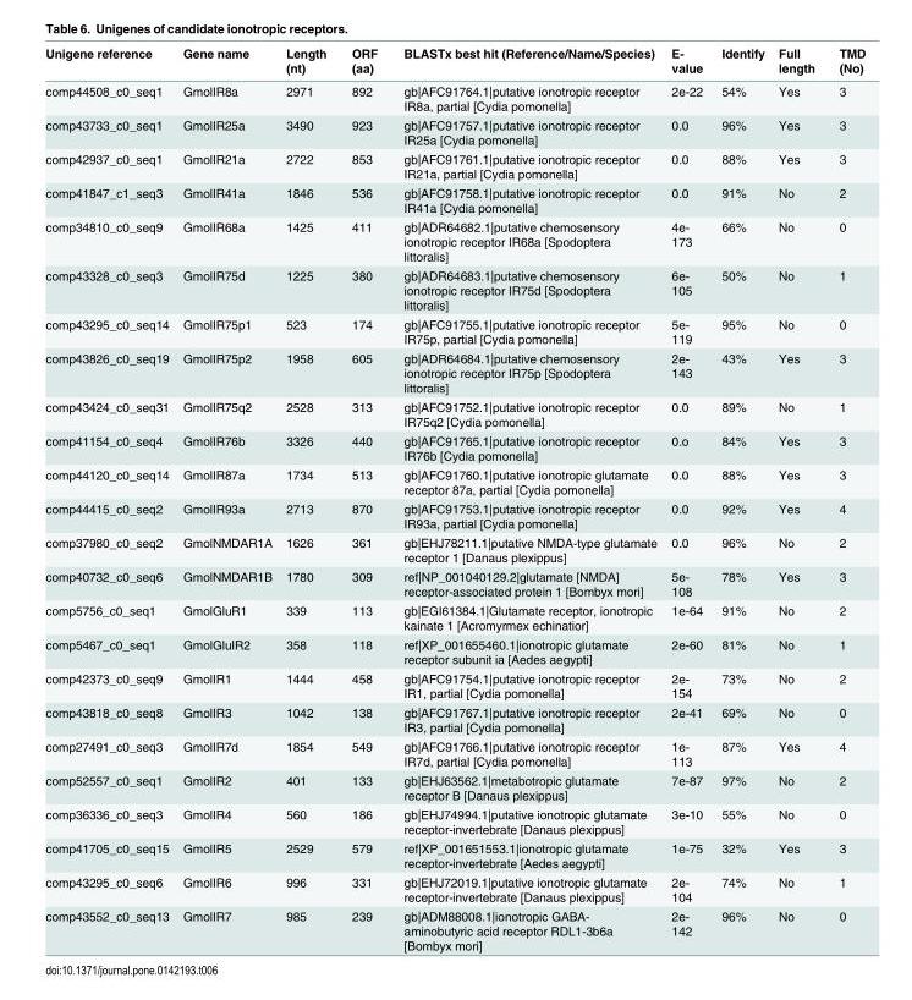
<table><thead><tr><td>Unigene reference</td><td>Gene name</td><td>Length (nt)</td><td>ORF (aa)</td><td>BLASTx best hit (Reference/Name/Species)</td><td>E- value</td><td>Identify</td><td>Full length</td><td>TMD (No)</td></tr></thead><tbody><tr><td>comp44508_c0_seq1</td><td>GmolIR8a</td><td>2971</td><td>892</td><td>gb|AFC91764.1|putative ionotropic receptor IR8a, partial [Cydia pomonella]</td><td>2e-22</td><td>54%</td><td>Yes</td><td>3</td></tr><tr><td>comp43733_c0_seq1</td><td>GmolIR25a</td><td>3490</td><td>923</td><td>gb|AFC91757.1|putative ionotropic receptor IR25a [Cydia pomonella]</td><td>0.0</td><td>96%</td><td>Yes</td><td>3</td></tr><tr><td>comp42937_c0_seq1</td><td>GmolIR21a</td><td>2722</td><td>853</td><td>gb|AFC91761.1|putative ionotropic receptor IR21a, partial [Cydia pomonella]</td><td>0.0</td><td>88%</td><td>Yes</td><td>3</td></tr><tr><td>comp41847_c1_seq3</td><td>GmolIR41a</td><td>1846</td><td>536</td><td>gb|AFC91758.1|putative ionotropic receptor IR41a [Cydia pomonella]</td><td>0.0</td><td>91%</td><td>No</td><td>2</td></tr><tr><td>comp34810_c0_seq9</td><td>GmolIR68a</td><td>1425</td><td>411</td><td>gb|ADR64682.1|putative chemosensory ionotropic receptor IR68a [Spodoptera littoralis]</td><td>4e- 173</td><td>66%</td><td>No</td><td>0</td></tr><tr><td>comp43328_c0_seq3</td><td>GmolIR75d</td><td>1225</td><td>380</td><td>gb|ADR64683.1|putative chemosensory ionotropic receptor IR75d [Spodoptera littoralis]</td><td>6e- 105</td><td>50%</td><td>No</td><td>1</td></tr><tr><td>comp43295_c0_seq14</td><td>GmolIR75p1</td><td>523</td><td>174</td><td>gb|AFC91755.1|putative ionotropic receptor IR75p, partial [Cydia pomonella]</td><td>5e- 119</td><td>95%</td><td>No</td><td>0</td></tr><tr><td>comp43826_c0_seq19</td><td>GmolIR75p2</td><td>1958</td><td>605</td><td>gb|ADR64684.1|putative chemosensory ionotropic receptor IR75p [Spodoptera littoralis]</td><td>2e- 143</td><td>43%</td><td>Yes</td><td>3</td></tr><tr><td>comp43424_c0_seq31</td><td>GmolIR75q2</td><td>2528</td><td>313</td><td>gb|AFC91752.1|putative ionotropic receptor IR75q2 [Cydia pomonella]</td><td>0.0</td><td>89%</td><td>No</td><td>1</td></tr><tr><td>comp41154_c0_seq4</td><td>GmolIR76b</td><td>3326</td><td>440</td><td>gb|AFC91765.1|putative ionotropic receptor IR76b [Cydia pomonella]</td><td>0.o</td><td>84%</td><td>Yes</td><td>3</td></tr><tr><td>comp44120_c0_seq14</td><td>GmolIR87a</td><td>1734</td><td>513</td><td>gb|AFC91760.1|putative ionotropic glutamate receptor 87a, partial [Cydia pomonella]</td><td>0.0</td><td>88%</td><td>Yes</td><td>3</td></tr><tr><td>comp44415_c0_seq2</td><td>GmolIR93a</td><td>2713</td><td>870</td><td>gb|AFC91753.1|putative ionotropic receptor IR93a, partial [Cydia pomonella]</td><td>0.0</td><td>92%</td><td>Yes</td><td>4</td></tr><tr><td>comp37980_c0_seq2</td><td>GmolNMDAR1A</td><td>1626</td><td>361</td><td>gb|EHJ78211.1|putative NMDA-type glutamate receptor 1 [Danaus plexippus]</td><td>0.0</td><td>96%</td><td>No</td><td>2</td></tr><tr><td>comp40732_c0_seq6</td><td>GmolNMDAR1B</td><td>1780</td><td>309</td><td>ref|NP_001040129.2|glutamate [NMDA] receptor-associated protein 1 [Bombyx mori]</td><td>5e- 108</td><td>78%</td><td>Yes</td><td>3</td></tr><tr><td>comp5756_c0_seq1</td><td>GmolGluR1</td><td>339</td><td>113</td><td>gb|EGI61384.1|Glutamate receptor, ionotropic kainate 1 [Acromyrmex echinatior]</td><td>1e-64</td><td>91%</td><td>No</td><td>2</td></tr><tr><td>comp5467_c0_seq1</td><td>GmolGluIR2</td><td>358</td><td>118</td><td>ref|XP_001655460.1|ionotropic glutamate receptor subunit ia [Aedes aegypti]</td><td>2e-60</td><td>81%</td><td>No</td><td>1</td></tr><tr><td>comp42373_c0_seq9</td><td>GmolIR1</td><td>1444</td><td>458</td><td>gb|AFC91754.1|putative ionotropic receptor IR1, partial [Cydia pomonella]</td><td>2e- 154</td><td>73%</td><td>No</td><td>2</td></tr><tr><td>comp43818_c0_seq8</td><td>GmolIR3</td><td>1042</td><td>138</td><td>gb|AFC91767.1|putative ionotropic receptor IR3, partial [Cydia pomonella]</td><td>2e-41</td><td>69%</td><td>No</td><td>0</td></tr><tr><td>comp27491_c0_seq3</td><td>GmolIR7d</td><td>1854</td><td>549</td><td>gb|AFC91766.1|putative ionotropic receptor IR7d, partial [Cydia pomonella]</td><td>1e- 113</td><td>87%</td><td>Yes</td><td>4</td></tr><tr><td>comp52557_c0_seq1</td><td>GmolIR2</td><td>401</td><td>133</td><td>gb|EHJ63562.1|metabotropic glutamate receptor B [Danaus plexippus]</td><td>7e-87</td><td>97%</td><td>No</td><td>2</td></tr><tr><td>comp36336_c0_seq3</td><td>GmolIR4</td><td>560</td><td>186</td><td>gb|EHJ74994.1|putative ionotropic glutamate receptor-invertebrate [Danaus plexippus]</td><td>3e-10</td><td>55%</td><td>No</td><td>0</td></tr><tr><td>comp41705_c0_seq15</td><td>GmolIR5</td><td>2529</td><td>579</td><td>ref|XP_001651553.1|ionotropic glutamate receptor-invertebrate [Aedes aegypti]</td><td>1e-75</td><td>32%</td><td>Yes</td><td>3</td></tr><tr><td>comp43295_c0_seq6</td><td>GmolIR6</td><td>996</td><td>331</td><td>gb|EHJ72019.1|putative ionotropic glutamate receptor-invertebrate [Danaus plexippus]</td><td>2e- 104</td><td>74%</td><td>No</td><td>1</td></tr><tr><td>comp43552_c0_seq13</td><td>GmolIR7</td><td>985</td><td>239</td><td>gb|ADM88008.1|ionotropic GABA- aminobutyric acid receptor RDL1-3b6a [Bombyx mori]</td><td>2e- 142</td><td>96%</td><td>No</td><td>0</td></tr></tbody></table>